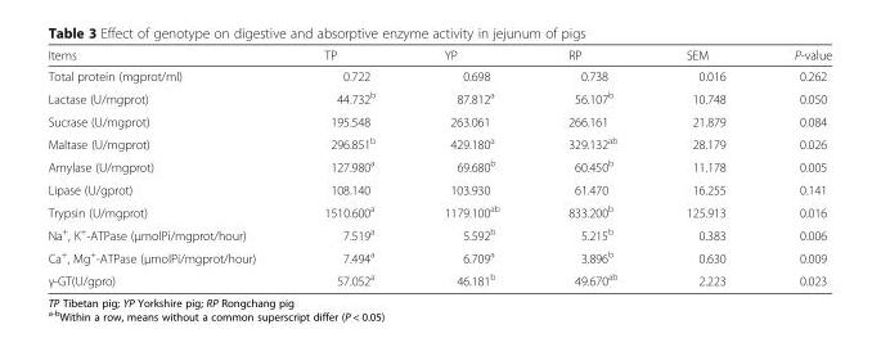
<table><thead><tr><td>Items</td><td>TP</td><td>YP</td><td>RP</td><td>SEM</td><td>P-value</td></tr></thead><tbody><tr><td>Total protein (mgprot/ml)</td><td>0.722</td><td>0.698</td><td>0.738</td><td>0.016</td><td>0.262</td></tr><tr><td>Lactase (U/mgprot)</td><td>44.732<sup>b</sup></td><td>87.812<sup>a</sup></td><td>56.107<sup>b</sup></td><td>10.748</td><td>0.050</td></tr><tr><td>Sucrase (U/mgprot)</td><td>195.548</td><td>263.061</td><td>266.161</td><td>21.879</td><td>0.084</td></tr><tr><td>Maltase (U/mgprot)</td><td>296.851<sup>b</sup></td><td>429.180<sup>a</sup></td><td>329.132<sup>ab</sup></td><td>28.179</td><td>0.026</td></tr><tr><td>Amylase (U/mgprot)</td><td>127.980<sup>a</sup></td><td>69.680<sup>b</sup></td><td>60.450<sup>b</sup></td><td>11.178</td><td>0.005</td></tr><tr><td>Lipase (U/gprot)</td><td>108.140</td><td>103.930</td><td>61.470</td><td>16.255</td><td>0.141</td></tr><tr><td>Trypsin (U/mgprot)</td><td>1510.600<sup>a</sup></td><td>1179.100<sup>ab</sup></td><td>833.200<sup>b</sup></td><td>125.913</td><td>0.016</td></tr><tr><td>Na<sup>+</sup>, K<sup>+</sup>-ATPase (μmolPi/mgprot/hour)</td><td>7.519<sup>a</sup></td><td>5.592<sup>b</sup></td><td>5.215<sup>b</sup></td><td>0.383</td><td>0.006</td></tr><tr><td>Ca<sup>+</sup>, Mg<sup>+</sup>-ATPase (μmolPi/mgprot/hour)</td><td>7.494<sup>a</sup></td><td>6.709<sup>a</sup></td><td>3.896<sup>b</sup></td><td>0.630</td><td>0.009</td></tr><tr><td>γ-GT(U/gpro)</td><td>57.052<sup>a</sup></td><td>46.181<sup>b</sup></td><td>49.670<sup>ab</sup></td><td>2.223</td><td>0.023</td></tr></tbody></table>